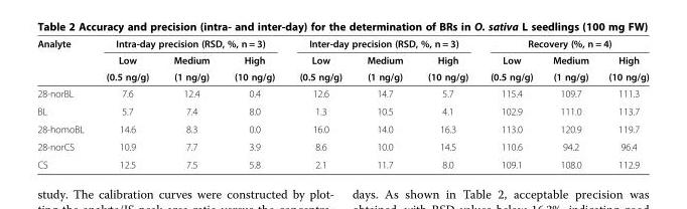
<table><thead><tr><td rowspan="3">Analyte</td><td colspan="3">Intra-day precision (RSD, %, n = 3)</td><td colspan="3">Inter-day precision (RSD, %, n = 3)</td><td colspan="3">Recovery (%, n = 4)</td></tr><tr><td rowspan="2">Low (0.5 ng/g)</td><td rowspan="2">Medium (1 ng/g)</td><td rowspan="2">High (10 ng/g)</td><td rowspan="2">Low (0.5 ng/g)</td><td rowspan="2">Medium (1 ng/g)</td><td rowspan="2">High (10 ng/g)</td><td rowspan="2">Low (0.5 ng/g)</td><td rowspan="2">Medium (1 ng/g)</td><td rowspan="2">High (10 ng/g)</td></tr><tr></tr></thead><tbody><tr><td>28-norBL</td><td>7.6</td><td>12.4</td><td>0.4</td><td>12.6</td><td>14.7</td><td>5.7</td><td>115.4</td><td>109.7</td><td>111.3</td></tr><tr><td>BL</td><td>5.7</td><td>7.4</td><td>8.0</td><td>1.3</td><td>10.5</td><td>4.1</td><td>102.9</td><td>111.0</td><td>113.7</td></tr><tr><td>28-homoBL</td><td>14.6</td><td>8.3</td><td>0.0</td><td>16.0</td><td>14.0</td><td>16.3</td><td>113.0</td><td>120.9</td><td>119.7</td></tr><tr><td>28-norCS</td><td>10.9</td><td>7.7</td><td>3.9</td><td>8.6</td><td>10.0</td><td>14.5</td><td>110.6</td><td>94.2</td><td>96.4</td></tr><tr><td>CS</td><td>12.5</td><td>7.5</td><td>5.8</td><td>2.1</td><td>11.7</td><td>8.0</td><td>109.1</td><td>108.0</td><td>112.9</td></tr></tbody></table>